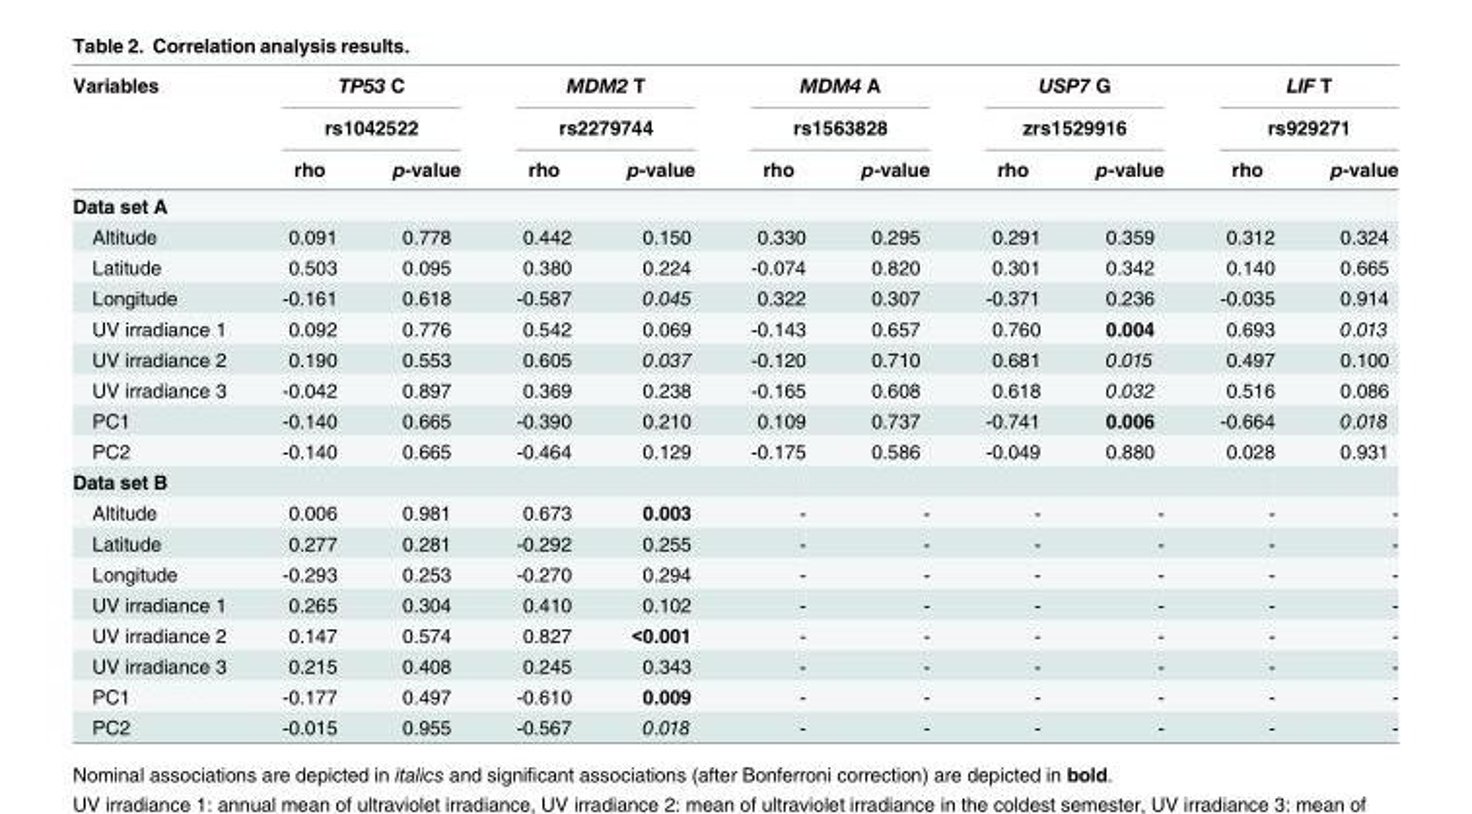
<table><thead><tr><td rowspan="3">Variables</td><td rowspan="2" colspan="2">TP53 C rs1042522</td><td rowspan="2" colspan="2">MDM2 T rs2279744</td><td rowspan="2" colspan="2">MDM4 A rs1563828</td><td rowspan="2" colspan="2">USP7 G zrs1529916</td><td rowspan="2" colspan="2">LIF T rs929271</td></tr><tr></tr><tr><td>rho</td><td>p-value</td><td>rho</td><td>p-value</td><td>rho</td><td>p-value</td><td>rho</td><td>p-value</td><td>rho</td><td>p-value</td></tr></thead><tbody><tr><td colspan="11">Data set A</td></tr><tr><td>Altitude</td><td>0.091</td><td>0.778</td><td>0.442</td><td>0.150</td><td>0.330</td><td>0.295</td><td>0.291</td><td>0.359</td><td>0.312</td><td>0.324</td></tr><tr><td>Latitude</td><td>0.503</td><td>0.095</td><td>0.380</td><td>0.224</td><td>-0.074</td><td>0.820</td><td>0.301</td><td>0.342</td><td>0.140</td><td>0.665</td></tr><tr><td>Longitude</td><td>-0.161</td><td>0.618</td><td>-0.587</td><td>0.045</td><td>0.322</td><td>0.307</td><td>-0.371</td><td>0.236</td><td>-0.035</td><td>0.914</td></tr><tr><td>UV irradiance 1</td><td>0.092</td><td>0.776</td><td>0.542</td><td>0.069</td><td>-0.143</td><td>0.657</td><td>0.760</td><td>0.004</td><td>0.693</td><td>0.013</td></tr><tr><td>UV irradiance 2</td><td>0.190</td><td>0.553</td><td>0.605</td><td>0.037</td><td>-0.120</td><td>0.710</td><td>0.681</td><td>0.015</td><td>0.497</td><td>0.100</td></tr><tr><td>UV irradiance 3</td><td>-0.042</td><td>0.897</td><td>0.369</td><td>0.238</td><td>-0.165</td><td>0.608</td><td>0.618</td><td>0.032</td><td>0.516</td><td>0.086</td></tr><tr><td>PC1</td><td>-0.140</td><td>0.665</td><td>-0.390</td><td>0.210</td><td>0.109</td><td>0.737</td><td>-0.741</td><td>0.006</td><td>-0.664</td><td>0.018</td></tr><tr><td>PC2</td><td>-0.140</td><td>0.665</td><td>-0.464</td><td>0.129</td><td>-0.175</td><td>0.586</td><td>-0.049</td><td>0.880</td><td>0.028</td><td>0.931</td></tr><tr><td colspan="11">Data set B</td></tr><tr><td>Altitude</td><td>0.006</td><td>0.981</td><td>0.673</td><td>0.003</td><td>-</td><td>-</td><td>-</td><td>-</td><td>-</td><td>-</td></tr><tr><td>Latitude</td><td>0.277</td><td>0.281</td><td>-0.292</td><td>0.255</td><td>-</td><td>-</td><td>-</td><td>-</td><td>-</td><td>-</td></tr><tr><td>Longitude</td><td>-0.293</td><td>0.253</td><td>-0.270</td><td>0.294</td><td>-</td><td>-</td><td>-</td><td>-</td><td>-</td><td>-</td></tr><tr><td>UV irradiance 1</td><td>0.265</td><td>0.304</td><td>0.410</td><td>0.102</td><td>-</td><td>-</td><td>-</td><td>-</td><td>-</td><td>-</td></tr><tr><td>UV irradiance 2</td><td>0.147</td><td>0.574</td><td>0.827</td><td>&lt;0.001</td><td>-</td><td>-</td><td>-</td><td>-</td><td>-</td><td>-</td></tr><tr><td>UV irradiance 3</td><td>0.215</td><td>0.408</td><td>0.245</td><td>0.343</td><td>-</td><td>-</td><td>-</td><td>-</td><td>-</td><td>-</td></tr><tr><td>PC1</td><td>-0.177</td><td>0.497</td><td>-0.610</td><td>0.009</td><td>-</td><td>-</td><td>-</td><td>-</td><td>-</td><td>-</td></tr><tr><td>PC2</td><td>-0.015</td><td>0.955</td><td>-0.567</td><td>0.018</td><td>-</td><td>-</td><td>-</td><td>-</td><td>-</td><td>-</td></tr></tbody></table>